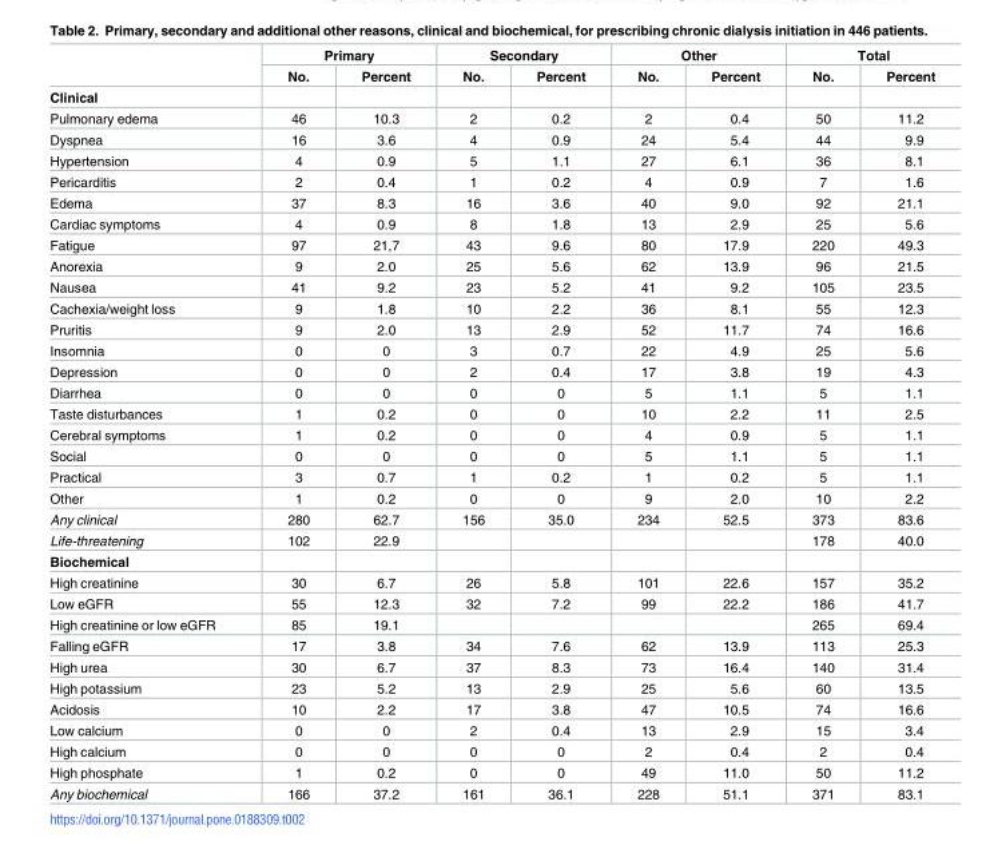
<table><thead><tr><td rowspan="2"></td><td colspan="2">Primary</td><td colspan="2">Secondary</td><td colspan="2">Other</td><td colspan="2">Total</td></tr><tr><td>No.</td><td>Percent</td><td>No.</td><td>Percent</td><td>No.</td><td>Percent</td><td>No.</td><td>Percent</td></tr></thead><tbody><tr><td colspan="9">Clinical</td></tr><tr><td>Pulmonary edema</td><td>46</td><td>10.3</td><td>2</td><td>0.2</td><td>2</td><td>0.4</td><td>50</td><td>11.2</td></tr><tr><td>Dyspnea</td><td>16</td><td>3.6</td><td>4</td><td>0.9</td><td>24</td><td>5.4</td><td>44</td><td>9.9</td></tr><tr><td>Hypertension</td><td>4</td><td>0.9</td><td>5</td><td>1.1</td><td>27</td><td>6.1</td><td>36</td><td>8.1</td></tr><tr><td>Pericarditis</td><td>2</td><td>0.4</td><td>1</td><td>0.2</td><td>4</td><td>0.9</td><td>7</td><td>1.6</td></tr><tr><td>Edema</td><td>37</td><td>8.3</td><td>16</td><td>3.6</td><td>40</td><td>9.0</td><td>92</td><td>21.1</td></tr><tr><td>Cardiac symptoms</td><td>4</td><td>0.9</td><td>8</td><td>1.8</td><td>13</td><td>2.9</td><td>25</td><td>5.6</td></tr><tr><td>Fatigue</td><td>97</td><td>21,7</td><td>43</td><td>9.6</td><td>80</td><td>17.9</td><td>220</td><td>49.3</td></tr><tr><td>Anorexia</td><td>9</td><td>2.0</td><td>25</td><td>5.6</td><td>62</td><td>13.9</td><td>96</td><td>21.5</td></tr><tr><td>Nausea</td><td>41</td><td>9.2</td><td>23</td><td>5.2</td><td>41</td><td>9.2</td><td>105</td><td>23.5</td></tr><tr><td>Cachexia/weight loss</td><td>9</td><td>1.8</td><td>10</td><td>2.2</td><td>36</td><td>8.1</td><td>55</td><td>12.3</td></tr><tr><td>Pruritis</td><td>9</td><td>2.0</td><td>13</td><td>2.9</td><td>52</td><td>11.7</td><td>74</td><td>16.6</td></tr><tr><td>Insomnia</td><td>0</td><td>0</td><td>3</td><td>0.7</td><td>22</td><td>4.9</td><td>25</td><td>5.6</td></tr><tr><td>Depression</td><td>0</td><td>0</td><td>2</td><td>0.4</td><td>17</td><td>3.8</td><td>19</td><td>4.3</td></tr><tr><td>Diarrhea</td><td>0</td><td>0</td><td>0</td><td>0</td><td>5</td><td>1.1</td><td>5</td><td>1.1</td></tr><tr><td>Taste disturbances</td><td>1</td><td>0.2</td><td>0</td><td>0</td><td>10</td><td>2.2</td><td>11</td><td>2.5</td></tr><tr><td>Cerebral symptoms</td><td>1</td><td>0.2</td><td>0</td><td>0</td><td>4</td><td>0.9</td><td>5</td><td>1.1</td></tr><tr><td>Social</td><td>0</td><td>0</td><td>0</td><td>0</td><td>5</td><td>1.1</td><td>5</td><td>1.1</td></tr><tr><td>Practical</td><td>3</td><td>0.7</td><td>1</td><td>0.2</td><td>1</td><td>0.2</td><td>5</td><td>1.1</td></tr><tr><td>Other</td><td>1</td><td>0.2</td><td>0</td><td>0</td><td>9</td><td>2.0</td><td>10</td><td>2.2</td></tr><tr><td>Any clinical</td><td>280</td><td>62.7</td><td>156</td><td>35.0</td><td>234</td><td>52.5</td><td>373</td><td>83.6</td></tr><tr><td>Life-threatening</td><td>102</td><td>22.9</td><td></td><td></td><td></td><td></td><td>178</td><td>40.0</td></tr><tr><td colspan="9">Biochemical</td></tr><tr><td>High creatinine</td><td>30</td><td>6.7</td><td>26</td><td>5.8</td><td>101</td><td>22.6</td><td>157</td><td>35.2</td></tr><tr><td>Low eGFR</td><td>55</td><td>12.3</td><td>32</td><td>7.2</td><td>99</td><td>22.2</td><td>186</td><td>41.7</td></tr><tr><td>High creatinine or low eGFR</td><td>85</td><td>19.1</td><td></td><td></td><td></td><td></td><td>265</td><td>69.4</td></tr><tr><td>Falling eGFR</td><td>17</td><td>3.8</td><td>34</td><td>7.6</td><td>62</td><td>13.9</td><td>113</td><td>25.3</td></tr><tr><td>High urea</td><td>30</td><td>6.7</td><td>37</td><td>8.3</td><td>73</td><td>16.4</td><td>140</td><td>31.4</td></tr><tr><td>High potassium</td><td>23</td><td>5.2</td><td>13</td><td>2.9</td><td>25</td><td>5.6</td><td>60</td><td>13.5</td></tr><tr><td>Acidosis</td><td>10</td><td>2.2</td><td>17</td><td>3.8</td><td>47</td><td>10.5</td><td>74</td><td>16.6</td></tr><tr><td>Low calcium</td><td>0</td><td>0</td><td>2</td><td>0.4</td><td>13</td><td>2.9</td><td>15</td><td>3.4</td></tr><tr><td>High calcium</td><td>0</td><td>0</td><td>0</td><td>0</td><td>2</td><td>0.4</td><td>2</td><td>0.4</td></tr><tr><td>High phosphate</td><td>1</td><td>0.2</td><td>0</td><td>0</td><td>49</td><td>11.0</td><td>50</td><td>11.2</td></tr><tr><td>Any biochemical</td><td>166</td><td>37.2</td><td>161</td><td>36.1</td><td>228</td><td>51.1</td><td>371</td><td>83.1</td></tr></tbody></table>